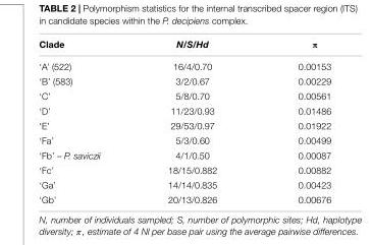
<table><thead><tr><td>Clade</td><td>N/S/Hd</td><td>π</td></tr></thead><tbody><tr><td>‘A’ (522)</td><td>16/4/0.70</td><td>0.00153</td></tr><tr><td>‘B’ (583)</td><td>3/2/0.67</td><td>0.00229</td></tr><tr><td>‘C’</td><td>5/8/0.70</td><td>0.00561</td></tr><tr><td>‘D’</td><td>11/23/0.93</td><td>0.01486</td></tr><tr><td>‘E’</td><td>29/53/0.97</td><td>0.01922</td></tr><tr><td>‘Fa’</td><td>5/3/0.60</td><td>0.00499</td></tr><tr><td>‘Fb’ – P. saviczii</td><td>4/1/0.50</td><td>0.00087</td></tr><tr><td>‘Fc’</td><td>18/15/0.882</td><td>0.00882</td></tr><tr><td>‘Ga’</td><td>14/14/0.835</td><td>0.00423</td></tr><tr><td>‘Gb’</td><td>20/13/0.826</td><td>0.00676</td></tr></tbody></table>